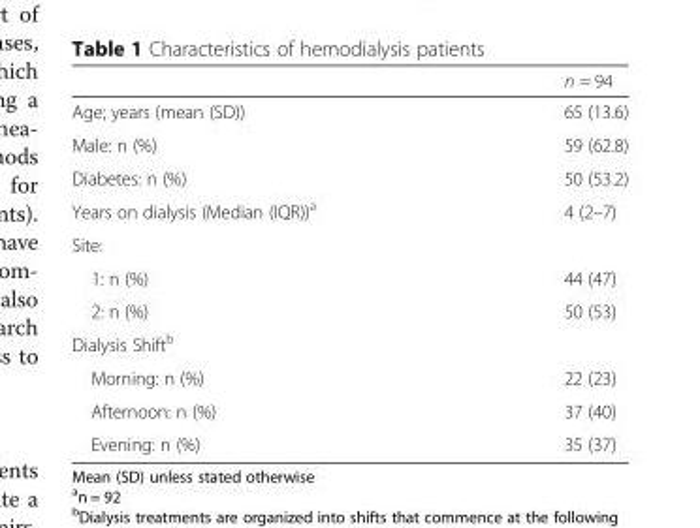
<table><thead><tr><td></td><td>n = 94</td></tr></thead><tbody><tr><td>Age; years (mean (SD))</td><td>65 (13.6)</td></tr><tr><td>Male: n (%)</td><td>59 (62.8)</td></tr><tr><td>Diabetes: n (%)</td><td>50 (53.2)</td></tr><tr><td>Years on dialysis (Median (IQR))<sup>a</sup></td><td>4 (2–7)</td></tr><tr><td colspan="2">Site:</td></tr><tr><td>1: n (%)</td><td>44 (47)</td></tr><tr><td>2: n (%)</td><td>50 (53)</td></tr><tr><td colspan="2">Dialysis Shift<sup>b</sup></td></tr><tr><td>Morning: n (%)</td><td>22 (23)</td></tr><tr><td>Afternoon: n (%)</td><td>37 (40)</td></tr><tr><td>Evening: n (%)</td><td>35 (37)</td></tr></tbody></table>